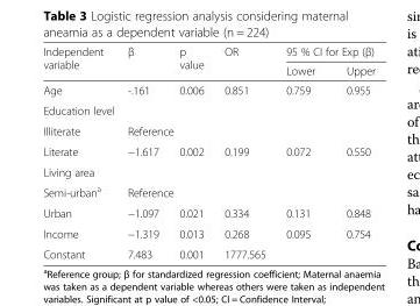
<table><thead><tr><td rowspan="2">Independent variable</td><td rowspan="2">β</td><td rowspan="2">p value</td><td rowspan="2">OR</td><td colspan="2">95 % CI for Exp (β)</td></tr><tr><td>Lower</td><td>Upper</td></tr></thead><tbody><tr><td>Age</td><td>-.161</td><td>0.006</td><td>0.851</td><td>0.759</td><td>0.955</td></tr><tr><td colspan="6">Education level</td></tr><tr><td>Illiterate</td><td colspan="5">Reference</td></tr><tr><td>Literate</td><td>−1.617</td><td>0.002</td><td>0.199</td><td>0.072</td><td>0.550</td></tr><tr><td colspan="6">Living area</td></tr><tr><td>Semi-urban<sup>a</sup></td><td colspan="5">Reference</td></tr><tr><td>Urban</td><td>−1.097</td><td>0.021</td><td>0.334</td><td>0.131</td><td>0.848</td></tr><tr><td>Income</td><td>−1.319</td><td>0.013</td><td>0.268</td><td>0.095</td><td>0.754</td></tr><tr><td>Constant</td><td>7.483</td><td>0.001</td><td>1777.565</td><td></td><td></td></tr></tbody></table>